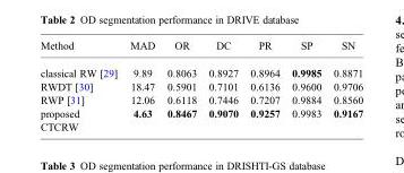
<table><thead><tr><td>Method</td><td>MAD</td><td>OR</td><td>DC</td><td>PR</td><td>SP</td><td>SN</td></tr></thead><tbody><tr><td>classical RW [29]</td><td>9.89</td><td>0.8063</td><td>0.8927</td><td>0.8964</td><td>0.9985</td><td>0.8871</td></tr><tr><td>RWDT [30]</td><td>18.47</td><td>0.5901</td><td>0.7101</td><td>0.6136</td><td>0.9600</td><td>0.9706</td></tr><tr><td>RWP [31]</td><td>12.06</td><td>0.6118</td><td>0.7446</td><td>0.7207</td><td>0.9884</td><td>0.8560</td></tr><tr><td>proposed CTCRW</td><td>4.63</td><td>0.8467</td><td>0.9070</td><td>0.9257</td><td>0.9983</td><td>0.9167</td></tr></tbody></table>